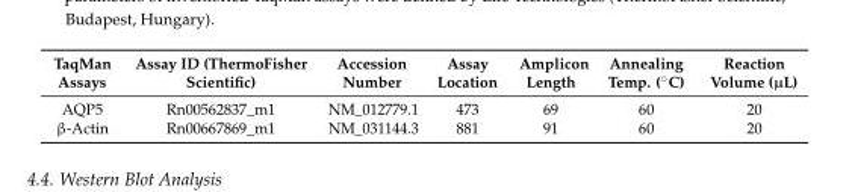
<table><thead><tr><td>TaqMan Assays</td><td>Assay ID (ThermoFisher Scientific)</td><td>Accession Number</td><td>Assay Location</td><td>Amplicon Length</td><td>Annealing Temp. (˝C)</td><td>Reaction Volume (µL)</td></tr></thead><tbody><tr><td>AQP5</td><td>Rn00562837_m1</td><td>NM_012779.1</td><td>473</td><td>69</td><td>60</td><td>20</td></tr><tr><td>β-Actin</td><td>Rn00667869_m1</td><td>NM_031144.3</td><td>881</td><td>91</td><td>60</td><td>20</td></tr></tbody></table>